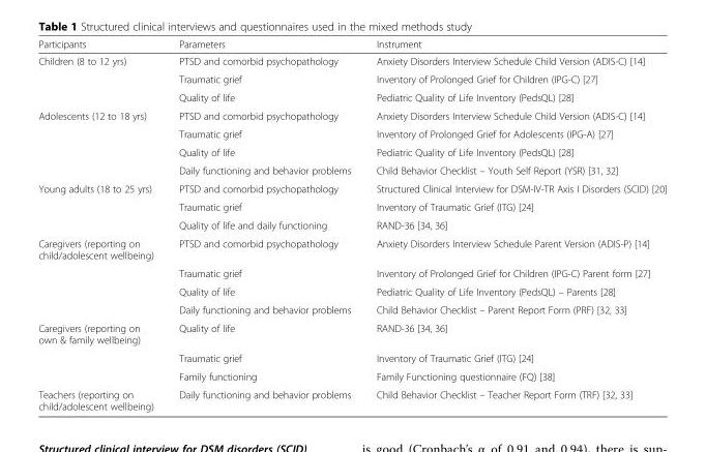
<table><thead><tr><td>Participants</td><td>Parameters</td><td>Instrument</td></tr></thead><tbody><tr><td rowspan="3">Children (8 to 12 yrs)</td><td>PTSD and comorbid psychopathology</td><td>Anxiety Disorders Interview Schedule Child Version (ADIS-C) [14]</td></tr><tr><td>Traumatic grief</td><td>Inventory of Prolonged Grief for Children (IPG-C) [27]</td></tr><tr><td>Quality of life</td><td>Pediatric Quality of Life Inventory (PedsQL) [28]</td></tr><tr><td rowspan="4">Adolescents (12 to 18 yrs)</td><td>PTSD and comorbid psychopathology</td><td>Anxiety Disorders Interview Schedule Child Version (ADIS-C) [14]</td></tr><tr><td>Traumatic grief</td><td>Inventory of Prolonged Grief for Adolescents (IPG-A) [27]</td></tr><tr><td>Quality of life</td><td>Pediatric Quality of Life Inventory (PedsQL) [28]</td></tr><tr><td>Daily functioning and behavior problems</td><td>Child Behavior Checklist – Youth Self Report (YSR) [31, 32]</td></tr><tr><td rowspan="3">Young adults (18 to 25 yrs)</td><td>PTSD and comorbid psychopathology</td><td>Structured Clinical Interview for DSM-IV-TR Axis I Disorders (SCID) [20]</td></tr><tr><td>Traumatic grief</td><td>Inventory of Traumatic Grief (ITG) [24]</td></tr><tr><td>Quality of life and daily functioning</td><td>RAND-36 [34, 36]</td></tr><tr><td rowspan="4">Caregivers (reporting on child/adolescent wellbeing)</td><td>PTSD and comorbid psychopathology</td><td>Anxiety Disorders Interview Schedule Parent Version (ADIS-P) [14]</td></tr><tr><td>Traumatic grief</td><td>Inventory of Prolonged Grief for Children (IPG-C) Parent form [27]</td></tr><tr><td>Quality of life</td><td>Pediatric Quality of Life Inventory (PedsQL) – Parents [28]</td></tr><tr><td>Daily functioning and behavior problems</td><td>Child Behavior Checklist – Parent Report Form (PRF) [32, 33]</td></tr><tr><td rowspan="3">Caregivers (reporting on own &amp; family wellbeing)</td><td>Quality of life</td><td>RAND-36 [34, 36]</td></tr><tr><td>Traumatic grief</td><td>Inventory of Traumatic Grief (ITG) [24]</td></tr><tr><td>Family functioning</td><td>Family Functioning questionnaire (FQ) [38]</td></tr><tr><td>Teachers (reporting on child/adolescent wellbeing)</td><td>Daily functioning and behavior problems</td><td>Child Behavior Checklist – Teacher Report Form (TRF) [32, 33]</td></tr></tbody></table>